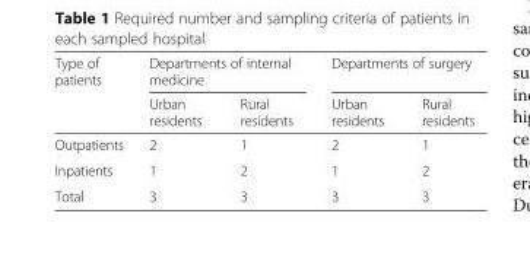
<table><thead><tr><td rowspan="2">Type of patients</td><td colspan="2">Departments of internal medicine</td><td colspan="2">Departments of surgery</td></tr><tr><td>Urban residents</td><td>Rural residents</td><td>Urban residents</td><td>Rural residents</td></tr></thead><tbody><tr><td>Outpatients</td><td>2</td><td>1</td><td>2</td><td>1</td></tr><tr><td>Inpatients</td><td>1</td><td>2</td><td>1</td><td>2</td></tr><tr><td>Total</td><td>3</td><td>3</td><td>3</td><td>3</td></tr></tbody></table>